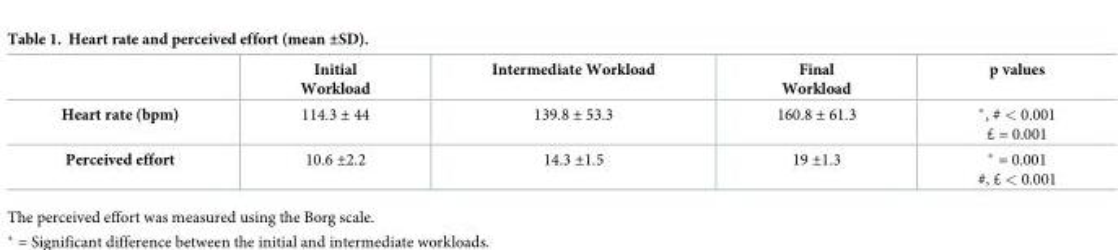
<table><thead><tr><td></td><td>Initial Workload</td><td>Intermediate Workload</td><td>Final Workload</td><td>p values</td></tr></thead><tbody><tr><td>Heart rate (bpm)</td><td>114.3 ± 44</td><td>139.8 ± 53.3</td><td>160.8 ± 61.3</td><td>*, # &lt; 0.001 £ = 0.001</td></tr><tr><td>Perceived effort</td><td>10.6 ±2.2</td><td>14.3 ±1.5</td><td>19 ±1.3</td><td>* = 0.001 #, £ &lt; 0.001</td></tr></tbody></table>